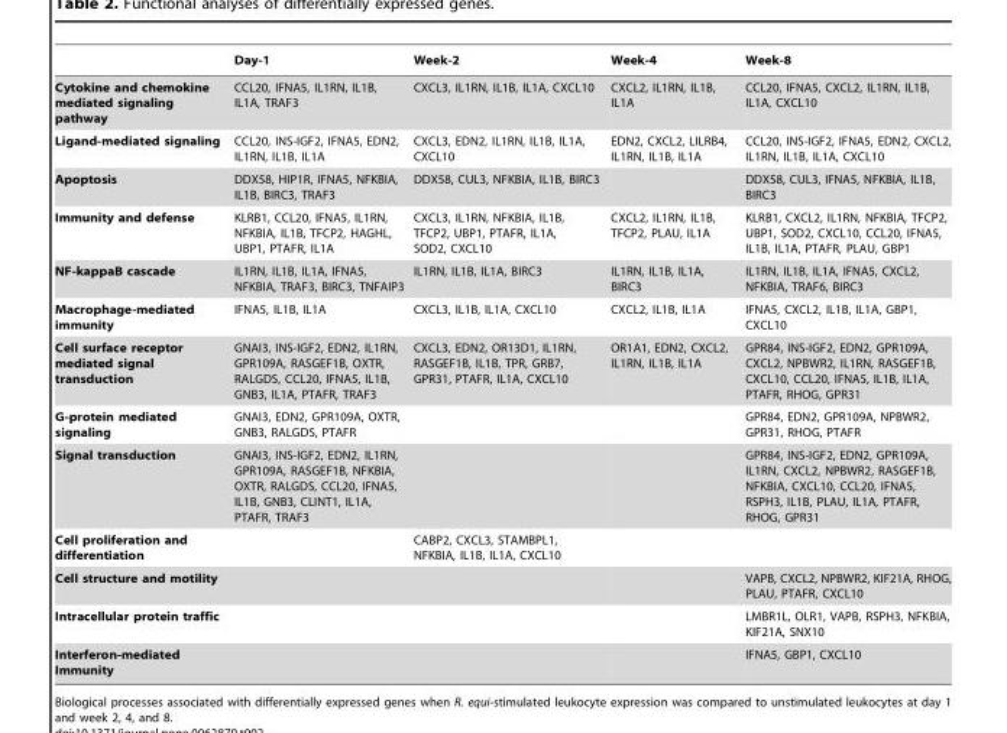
<table><thead><tr><td></td><td>Day-1</td><td>Week-2</td><td>Week-4</td><td>Week-8</td></tr></thead><tbody><tr><td>Cytokine and chemokine mediated signaling pathway</td><td>CCL20, IFNA5, IL1RN, IL1B, IL1A, TRAF3</td><td>CXCL3, IL1RN, IL1B, IL1A, CXCL10</td><td>CXCL2, IL1RN, IL1B, IL1A</td><td>CCL20, IFNA5, CXCL2, IL1RN, IL1B, IL1A, CXCL10</td></tr><tr><td>Ligand-mediated signaling</td><td>CCL20, INS-IGF2, IFNA5, EDN2, IL1RN, IL1B, IL1A</td><td>CXCL3, EDN2, IL1RN, IL1B, IL1A, CXCL10</td><td>EDN2, CXCL2, LILRB4, IL1RN, IL1B, IL1A</td><td>CCL20, INS-IGF2, IFNA5, EDN2, CXCL2, IL1RN, IL1B, IL1A, CXCL10</td></tr><tr><td>Apoptosis</td><td>DDX58, HIP1R, IFNA5, NFKBIA, IL1B, BIRC3, TRAF3</td><td>DDX58, CUL3, NFKBIA, IL1B, BIRC3</td><td></td><td>DDX58, CUL3, IFNA5, NFKBIA, IL1B, BIRC3</td></tr><tr><td>Immunity and defense</td><td>KLRB1, CCL20, IFNA5, IL1RN, NFKBIA, IL1B, TFCP2, HAGHL, UBP1, PTAFR, IL1A</td><td>CXCL3, IL1RN, NFKBIA, IL1B, TFCP2, UBP1, PTAFR, IL1A, SOD2, CXCL10</td><td>CXCL2, IL1RN, IL1B, TFCP2, PLAU, IL1A</td><td>KLRB1, CXCL2, IL1RN, NFKBIA, TFCP2, UBP1, SOD2, CXCL10, CCL20, IFNA5, IL1B, IL1A, PTAFR, PLAU, GBP1</td></tr><tr><td>NF-kappaB cascade</td><td>IL1RN, IL1B, IL1A, IFNA5, NFKBIA, TRAF3, BIRC3, TNFAIP3</td><td>IL1RN, IL1B, IL1A, BIRC3</td><td>IL1RN, IL1B, IL1A, BIRC3</td><td>IL1RN, IL1B, IL1A, IFNA5, CXCL2, NFKBIA, TRAF6, BIRC3</td></tr><tr><td>Macrophage-mediated immunity</td><td>IFNA5, IL1B, IL1A</td><td>CXCL3, IL1B, IL1A, CXCL10</td><td>CXCL2, IL1B, IL1A</td><td>IFNA5, CXCL2, IL1B, IL1A, GBP1, CXCL10</td></tr><tr><td>Cell surface receptor mediated signal transduction</td><td>GNAI3, INS-IGF2, EDN2, IL1RN, GPR109A, RASGEF1B, OXTR, RALGDS, CCL20, IFNA5, IL1B, GNB3, IL1A, PTAFR, TRAF3</td><td>CXCL3, EDN2, OR13D1, IL1RN, RASGEF1B, IL1B, TPR, GRB7, GPR31, PTAFR, IL1A, CXCL10</td><td>OR1A1, EDN2, CXCL2, IL1RN, IL1B, IL1A</td><td>GPR84, INS-IGF2, EDN2, GPR109A, CXCL2, NPBWR2, IL1RN, RASGEF1B, CXCL10, CCL20, IFNA5, IL1B, IL1A, PTAFR, RHOG, GPR31</td></tr><tr><td>G-protein mediated signaling</td><td>GNAI3, EDN2, GPR109A, OXTR, GNB3, RALGDS, PTAFR</td><td></td><td></td><td>GPR84, EDN2, GPR109A, NPBWR2, GPR31, RHOG, PTAFR</td></tr><tr><td>Signal transduction</td><td>GNAI3, INS-IGF2, EDN2, IL1RN, GPR109A, RASGEF1B, NFKBIA, OXTR, RALGDS, CCL20, IFNA5, IL1B, GNB3, CLINT1, IL1A, PTAFR, TRAF3</td><td></td><td></td><td>GPR84, INS-IGF2, EDN2, GPR109A, IL1RN, CXCL2, NPBWR2, RASGEF1B, NFKBIA, CXCL10, CCL20, IFNA5, RSPH3, IL1B, PLAU, IL1A, PTAFR, RHOG, GPR31</td></tr><tr><td>Cell proliferation and differentiation</td><td></td><td>CABP2, CXCL3, STAMBPL1, NFKBIA, IL1B, IL1A, CXCL10</td><td></td><td></td></tr><tr><td>Cell structure and motility</td><td></td><td></td><td></td><td>VAPB, CXCL2, NPBWR2, KIF21A, RHOG, PLAU, PTAFR, CXCL10</td></tr><tr><td>Intracellular protein traffic</td><td></td><td></td><td></td><td>LMBR1L, OLR1, VAPB, RSPH3, NFKBIA, KIF21A, SNX10</td></tr><tr><td>Interferon-mediated Immunity</td><td></td><td></td><td></td><td>IFNA5, GBP1, CXCL10</td></tr></tbody></table>